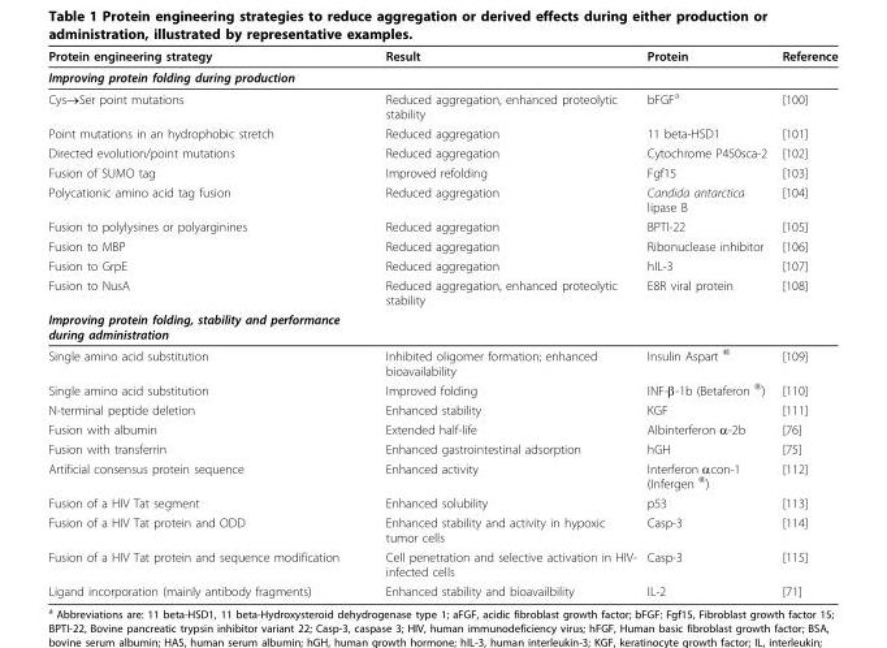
<table><thead><tr><td>Protein engineering strategy</td><td>Result</td><td>Protein</td><td>Reference</td></tr></thead><tbody><tr><td colspan="4">Improving protein folding during production</td></tr><tr><td>Cys→Ser point mutations</td><td>Reduced aggregation, enhanced proteolytic stability</td><td>bFGF<sup>a</sup></td><td>[100]</td></tr><tr><td>Point mutations in an hydrophobic stretch</td><td>Reduced aggregation</td><td>11 beta-HSD1</td><td>[101]</td></tr><tr><td>Directed evolution/point mutations</td><td>Reduced aggregation</td><td>Cytochrome P450sca-2</td><td>[102]</td></tr><tr><td>Fusion of SUMO tag</td><td>Improved refolding</td><td>Fgf15</td><td>[103]</td></tr><tr><td>Polycationic amino acid tag fusion</td><td>Reduced aggregation</td><td>Candida antarctica lipase B</td><td>[104]</td></tr><tr><td>Fusion to polylysines or polyarginines</td><td>Reduced aggregation</td><td>BPTI-22</td><td>[105]</td></tr><tr><td>Fusion to MBP</td><td>Reduced aggregation</td><td>Ribonuclease inhibitor</td><td>[106]</td></tr><tr><td>Fusion to GrpE</td><td>Reduced aggregation</td><td>hIL-3</td><td>[107]</td></tr><tr><td>Fusion to NusA</td><td>Reduced aggregation, enhanced proteolytic stability</td><td>E8R viral protein</td><td>[108]</td></tr><tr><td colspan="4">Improving protein folding, stability and performance during administration</td></tr><tr><td>Single amino acid substitution</td><td>Inhibited oligomer formation; enhanced bioavailability</td><td>Insulin Aspart <sup>®</sup></td><td>[109]</td></tr><tr><td>Single amino acid substitution</td><td>Improved folding</td><td>INF-β-1b (Betaferon <sup>®</sup>)</td><td>[110]</td></tr><tr><td>N-terminal peptide deletion</td><td>Enhanced stability</td><td>KGF</td><td>[111]</td></tr><tr><td>Fusion with albumin</td><td>Extended half-life</td><td>Albinterferon α-2b</td><td>[76]</td></tr><tr><td>Fusion with transferrin</td><td>Enhanced gastrointestinal adsorption</td><td>hGH</td><td>[75]</td></tr><tr><td>Artificial consensus protein sequence</td><td>Enhanced activity</td><td>Interferon αcon-1 (Infergen <sup>®</sup>)</td><td>[112]</td></tr><tr><td>Fusion of a HIV Tat segment</td><td>Enhanced solubility</td><td>p53</td><td>[113]</td></tr><tr><td>Fusion of a HIV Tat protein and ODD</td><td>Enhanced stability and activity in hypoxic tumor cells</td><td>Casp-3</td><td>[114]</td></tr><tr><td>Fusion of a HIV Tat protein and sequence modification</td><td>Cell penetration and selective activation in HIV- infected cells</td><td>Casp-3</td><td>[115]</td></tr><tr><td>Ligand incorporation (mainly antibody fragments)</td><td>Enhanced stability and bioavailbility</td><td>IL-2</td><td>[71]</td></tr></tbody></table>